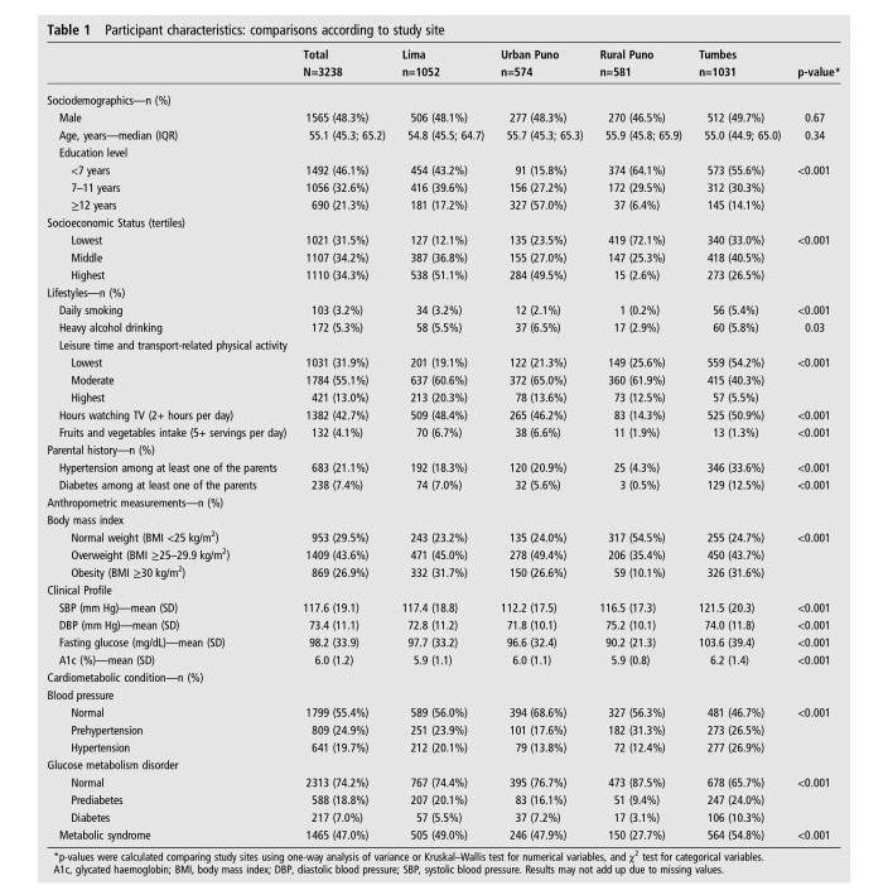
<table><thead><tr><td rowspan="2"></td><td rowspan="2">Total N=3238</td><td rowspan="2">Lima n=1052</td><td rowspan="2">Urban Puno n=574</td><td rowspan="2">Rural Puno n=581</td><td rowspan="2">Tumbes n=1031</td><td rowspan="2">p-value*</td></tr><tr></tr></thead><tbody><tr><td colspan="7">Sociodemographics—n (%)</td></tr><tr><td>Male</td><td>1565 (48.3%)</td><td>506 (48.1%)</td><td>277 (48.3%)</td><td>270 (46.5%)</td><td>512 (49.7%)</td><td>0.67</td></tr><tr><td>Age, years—median (IQR)</td><td>55.1 (45.3; 65.2)</td><td>54.8 (45.5; 64.7)</td><td>55.7 (45.3; 65.3)</td><td>55.9 (45.8; 65.9)</td><td>55.0 (44.9; 65.0)</td><td>0.34</td></tr><tr><td colspan="7">Education level</td></tr><tr><td>&lt;7 years</td><td>1492 (46.1%)</td><td>454 (43.2%)</td><td>91 (15.8%)</td><td>374 (64.1%)</td><td>573 (55.6%)</td><td>&lt;0.001</td></tr><tr><td>7–11 years</td><td>1056 (32.6%)</td><td>416 (39.6%)</td><td>156 (27.2%)</td><td>172 (29.5%)</td><td>312 (30.3%)</td><td></td></tr><tr><td>≥12 years</td><td>690 (21.3%)</td><td>181 (17.2%)</td><td>327 (57.0%)</td><td>37 (6.4%)</td><td>145 (14.1%)</td><td></td></tr><tr><td colspan="7">Socioeconomic Status (tertiles)</td></tr><tr><td>Lowest</td><td>1021 (31.5%)</td><td>127 (12.1%)</td><td>135 (23.5%)</td><td>419 (72.1%)</td><td>340 (33.0%)</td><td>&lt;0.001</td></tr><tr><td>Middle</td><td>1107 (34.2%)</td><td>387 (36.8%)</td><td>155 (27.0%)</td><td>147 (25.3%)</td><td>418 (40.5%)</td><td></td></tr><tr><td>Highest</td><td>1110 (34.3%)</td><td>538 (51.1%)</td><td>284 (49.5%)</td><td>15 (2.6%)</td><td>273 (26.5%)</td><td></td></tr><tr><td colspan="7">Lifestyles—n (%)</td></tr><tr><td>Daily smoking</td><td>103 (3.2%)</td><td>34 (3.2%)</td><td>12 (2.1%)</td><td>1 (0.2%)</td><td>56 (5.4%)</td><td>&lt;0.001</td></tr><tr><td>Heavy alcohol drinking</td><td>172 (5.3%)</td><td>58 (5.5%)</td><td>37 (6.5%)</td><td>17 (2.9%)</td><td>60 (5.8%)</td><td>0.03</td></tr><tr><td colspan="7">Leisure time and transport-related physical activity</td></tr><tr><td>Lowest</td><td>1031 (31.9%)</td><td>201 (19.1%)</td><td>122 (21.3%)</td><td>149 (25.6%)</td><td>559 (54.2%)</td><td>&lt;0.001</td></tr><tr><td>Moderate</td><td>1784 (55.1%)</td><td>637 (60.6%)</td><td>372 (65.0%)</td><td>360 (61.9%)</td><td>415 (40.3%)</td><td></td></tr><tr><td>Highest</td><td>421 (13.0%)</td><td>213 (20.3%)</td><td>78 (13.6%)</td><td>73 (12.5%)</td><td>57 (5.5%)</td><td></td></tr><tr><td>Hours watching TV (2+ hours per day)</td><td>1382 (42.7%)</td><td>509 (48.4%)</td><td>265 (46.2%)</td><td>83 (14.3%)</td><td>525 (50.9%)</td><td>&lt;0.001</td></tr><tr><td>Fruits and vegetables intake (5+ servings per day)</td><td>132 (4.1%)</td><td>70 (6.7%)</td><td>38 (6.6%)</td><td>11 (1.9%)</td><td>13 (1.3%)</td><td>&lt;0.001</td></tr><tr><td colspan="7">Parental history—n (%)</td></tr><tr><td>Hypertension among at least one of the parents</td><td>683 (21.1%)</td><td>192 (18.3%)</td><td>120 (20.9%)</td><td>25 (4.3%)</td><td>346 (33.6%)</td><td>&lt;0.001</td></tr><tr><td>Diabetes among at least one of the parents</td><td>238 (7.4%)</td><td>74 (7.0%)</td><td>32 (5.6%)</td><td>3 (0.5%)</td><td>129 (12.5%)</td><td>&lt;0.001</td></tr><tr><td colspan="7">Anthropometric measurements—n (%)</td></tr><tr><td colspan="7">Body mass index</td></tr><tr><td>Normal weight (BMI &lt;25 kg/m<sup>2</sup>)</td><td>953 (29.5%)</td><td>243 (23.2%)</td><td>135 (24.0%)</td><td>317 (54.5%)</td><td>255 (24.7%)</td><td>&lt;0.001</td></tr><tr><td>Overweight (BMI ≥25–29.9 kg/m<sup>2</sup>)</td><td>1409 (43.6%)</td><td>471 (45.0%)</td><td>278 (49.4%)</td><td>206 (35.4%)</td><td>450 (43.7%)</td><td></td></tr><tr><td>Obesity (BMI ≥30 kg/m<sup>2</sup>)</td><td>869 (26.9%)</td><td>332 (31.7%)</td><td>150 (26.6%)</td><td>59 (10.1%)</td><td>326 (31.6%)</td><td></td></tr><tr><td colspan="7">Clinical Profile</td></tr><tr><td>SBP (mm Hg)—mean (SD)</td><td>117.6 (19.1)</td><td>117.4 (18.8)</td><td>112.2 (17.5)</td><td>116.5 (17.3)</td><td>121.5 (20.3)</td><td>&lt;0.001</td></tr><tr><td>DBP (mm Hg)—mean (SD)</td><td>73.4 (11.1)</td><td>72.8 (11.2)</td><td>71.8 (10.1)</td><td>75.2 (10.1)</td><td>74.0 (11.8)</td><td>&lt;0.001</td></tr><tr><td>Fasting glucose (mg/dL)—mean (SD)</td><td>98.2 (33.9)</td><td>97.7 (33.2)</td><td>96.6 (32.4)</td><td>90.2 (21.3)</td><td>103.6 (39.4)</td><td>&lt;0.001</td></tr><tr><td>A1c (%)—mean (SD)</td><td>6.0 (1.2)</td><td>5.9 (1.1)</td><td>6.0 (1.1)</td><td>5.9 (0.8)</td><td>6.2 (1.4)</td><td>&lt;0.001</td></tr><tr><td colspan="7">Cardiometabolic condition—n (%)</td></tr><tr><td colspan="7">Blood pressure</td></tr><tr><td>Normal</td><td>1799 (55.4%)</td><td>589 (56.0%)</td><td>394 (68.6%)</td><td>327 (56.3%)</td><td>481 (46.7%)</td><td>&lt;0.001</td></tr><tr><td>Prehypertension</td><td>809 (24.9%)</td><td>251 (23.9%)</td><td>101 (17.6%)</td><td>182 (31.3%)</td><td>273 (26.5%)</td><td></td></tr><tr><td>Hypertension</td><td>641 (19.7%)</td><td>212 (20.1%)</td><td>79 (13.8%)</td><td>72 (12.4%)</td><td>277 (26.9%)</td><td></td></tr><tr><td colspan="7">Glucose metabolism disorder</td></tr><tr><td>Normal</td><td>2313 (74.2%)</td><td>767 (74.4%)</td><td>395 (76.7%)</td><td>473 (87.5%)</td><td>678 (65.7%)</td><td>&lt;0.001</td></tr><tr><td>Prediabetes</td><td>588 (18.8%)</td><td>207 (20.1%)</td><td>83 (16.1%)</td><td>51 (9.4%)</td><td>247 (24.0%)</td><td></td></tr><tr><td>Diabetes</td><td>217 (7.0%)</td><td>57 (5.5%)</td><td>37 (7.2%)</td><td>17 (3.1%)</td><td>106 (10.3%)</td><td></td></tr><tr><td>Metabolic syndrome</td><td>1465 (47.0%)</td><td>505 (49.0%)</td><td>246 (47.9%)</td><td>150 (27.7%)</td><td>564 (54.8%)</td><td>&lt;0.001</td></tr></tbody></table>